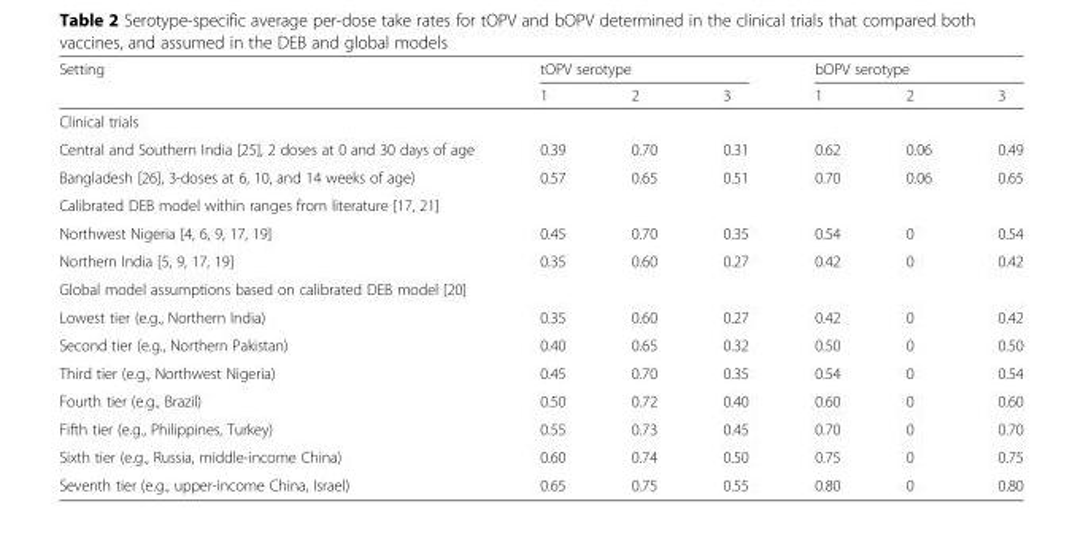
<table><thead><tr><td rowspan="2">Setting</td><td colspan="3">tOPV serotype</td><td colspan="3">bOPV serotype</td></tr><tr><td>1</td><td>2</td><td>3</td><td>1</td><td>2</td><td>3</td></tr></thead><tbody><tr><td colspan="7">Clinical trials</td></tr><tr><td>Central and Southern India [25], 2 doses at 0 and 30 days of age</td><td>0.39</td><td>0.70</td><td>0.31</td><td>0.62</td><td>0.06</td><td>0.49</td></tr><tr><td>Bangladesh [26], 3-doses at 6, 10, and 14 weeks of age)</td><td>0.57</td><td>0.65</td><td>0.51</td><td>0.70</td><td>0.06</td><td>0.65</td></tr><tr><td colspan="7">Calibrated DEB model within ranges from literature [17, 21]</td></tr><tr><td>Northwest Nigeria [4, 6, 9, 17, 19]</td><td>0.45</td><td>0.70</td><td>0.35</td><td>0.54</td><td>0</td><td>0.54</td></tr><tr><td>Northern India [5, 9, 17, 19]</td><td>0.35</td><td>0.60</td><td>0.27</td><td>0.42</td><td>0</td><td>0.42</td></tr><tr><td colspan="7">Global model assumptions based on calibrated DEB model [20]</td></tr><tr><td>Lowest tier (e.g., Northern India)</td><td>0.35</td><td>0.60</td><td>0.27</td><td>0.42</td><td>0</td><td>0.42</td></tr><tr><td>Second tier (e.g., Northern Pakistan)</td><td>0.40</td><td>0.65</td><td>0.32</td><td>0.50</td><td>0</td><td>0.50</td></tr><tr><td>Third tier (e.g., Northwest Nigeria)</td><td>0.45</td><td>0.70</td><td>0.35</td><td>0.54</td><td>0</td><td>0.54</td></tr><tr><td>Fourth tier (e.g., Brazil)</td><td>0.50</td><td>0.72</td><td>0.40</td><td>0.60</td><td>0</td><td>0.60</td></tr><tr><td>Fifth tier (e.g., Philippines, Turkey)</td><td>0.55</td><td>0.73</td><td>0.45</td><td>0.70</td><td>0</td><td>0.70</td></tr><tr><td>Sixth tier (e.g., Russia, middle-income China)</td><td>0.60</td><td>0.74</td><td>0.50</td><td>0.75</td><td>0</td><td>0.75</td></tr><tr><td>Seventh tier (e.g., upper-income China, Israel)</td><td>0.65</td><td>0.75</td><td>0.55</td><td>0.80</td><td>0</td><td>0.80</td></tr></tbody></table>